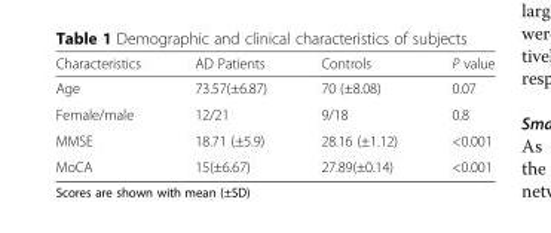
<table><thead><tr><td>Characteristics</td><td>AD Patients</td><td>Controls</td><td>P value</td></tr></thead><tbody><tr><td>Age</td><td>73.57(±6.87)</td><td>70 (±8.08)</td><td>0.07</td></tr><tr><td>Female/male</td><td>12/21</td><td>9/18</td><td>0.8</td></tr><tr><td>MMSE</td><td>18.71 (±5.9)</td><td>28.16 (±1.12)</td><td>&lt;0.001</td></tr><tr><td>MoCA</td><td>15(±6.67)</td><td>27.89(±0.14)</td><td>&lt;0.001</td></tr></tbody></table>